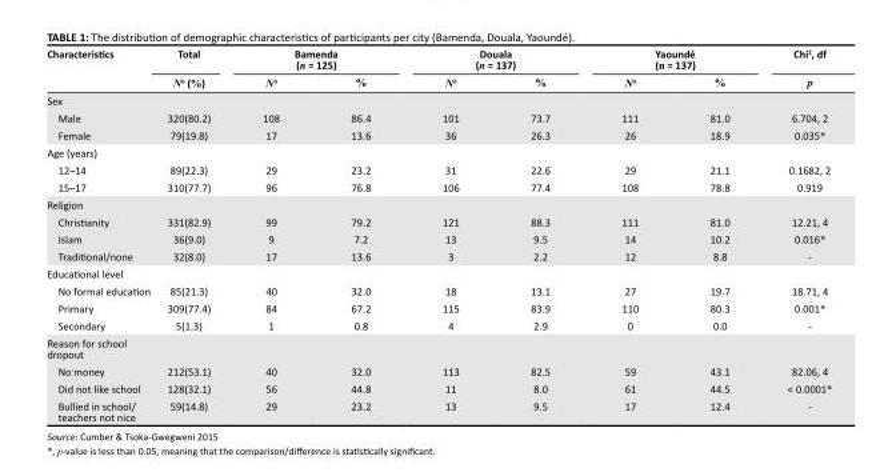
<table><thead><tr><td rowspan="2">Characteristics</td><td rowspan="2">Total N<sup>o</sup> (%)</td><td colspan="2">Bamenda (n = 125)</td><td colspan="2">Douala (n = 137)</td><td colspan="2">Yaoundé (n = 137)</td><td rowspan="2">Chi<sup>2</sup>, df p</td></tr><tr><td>N<sup>o</sup></td><td>%</td><td>N<sup>o</sup></td><td>%</td><td>N<sup>o</sup></td><td>%</td></tr></thead><tbody><tr><td colspan="9">Sex</td></tr><tr><td>Male</td><td>320(80.2)</td><td>108</td><td>86.4</td><td>101</td><td>73.7</td><td>111</td><td>81.0</td><td>6.704, 2</td></tr><tr><td>Female</td><td>79(19.8)</td><td>17</td><td>13.6</td><td>36</td><td>26.3</td><td>26</td><td>18.9</td><td>0.035*</td></tr><tr><td colspan="9">Age (years)</td></tr><tr><td>12–14</td><td>89(22.3)</td><td>29</td><td>23.2</td><td>31</td><td>22.6</td><td>29</td><td>21.1</td><td>0.1682, 2</td></tr><tr><td>15–17</td><td>310(77.7)</td><td>96</td><td>76.8</td><td>106</td><td>77.4</td><td>108</td><td>78.8</td><td>0.919</td></tr><tr><td colspan="9">Religion</td></tr><tr><td>Christianity</td><td>331(82.9)</td><td>99</td><td>79.2</td><td>121</td><td>88.3</td><td>111</td><td>81.0</td><td>12.21, 4</td></tr><tr><td>Islam</td><td>36(9.0)</td><td>9</td><td>7.2</td><td>13</td><td>9.5</td><td>14</td><td>10.2</td><td>0.016*</td></tr><tr><td>Traditional/none</td><td>32(8.0)</td><td>17</td><td>13.6</td><td>3</td><td>2.2</td><td>12</td><td>8.8</td><td>-</td></tr><tr><td colspan="9">Educational level</td></tr><tr><td>No formal education</td><td>85(21.3)</td><td>40</td><td>32.0</td><td>18</td><td>13.1</td><td>27</td><td>19.7</td><td>18.71, 4</td></tr><tr><td>Primary</td><td>309(77.4)</td><td>84</td><td>67.2</td><td>115</td><td>83.9</td><td>110</td><td>80.3</td><td>0.001*</td></tr><tr><td>Secondary</td><td>5(1.3)</td><td>1</td><td>0.8</td><td>4</td><td>2.9</td><td>0</td><td>0.0</td><td>-</td></tr><tr><td colspan="9">Reason for school dropout</td></tr><tr><td>No money</td><td>212(53.1)</td><td>40</td><td>32.0</td><td>113</td><td>82.5</td><td>59</td><td>43.1</td><td>82.06, 4</td></tr><tr><td>Did not like school</td><td>128(32.1)</td><td>56</td><td>44.8</td><td>11</td><td>8.0</td><td>61</td><td>44.5</td><td>&lt; 0.0001*</td></tr><tr><td>Bullied in school/ teachers not nice</td><td>59(14.8)</td><td>29</td><td>23.2</td><td>13</td><td>9.5</td><td>17</td><td>12.4</td><td>-</td></tr></tbody></table>